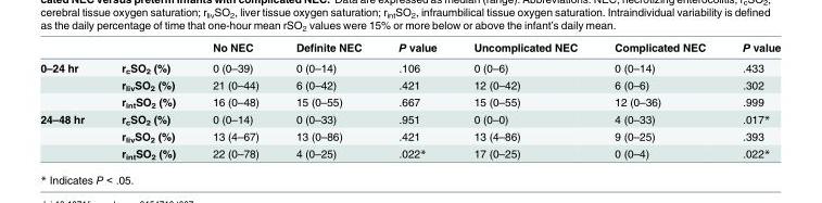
<table><thead><tr><td></td><td></td><td>No NEC</td><td>Definite NEC</td><td>P value</td><td>Uncomplicated NEC</td><td>Complicated NEC</td><td>P value</td></tr></thead><tbody><tr><td rowspan="3">0–24 hr</td><td>r<sub>c</sub>SO<sub>2</sub> (%)</td><td>0 (0–39)</td><td>0 (0–14)</td><td>.106</td><td>0 (0–6)</td><td>0 (0–14)</td><td>.433</td></tr><tr><td>r<sub>liv</sub>SO<sub>2</sub> (%)</td><td>21 (0–44)</td><td>6 (0–42)</td><td>.421</td><td>12 (0–42)</td><td>6 (0–6)</td><td>.302</td></tr><tr><td>r<sub>int</sub>SO<sub>2</sub> (%)</td><td>16 (0–48)</td><td>15 (0–55)</td><td>.667</td><td>15 (0–55)</td><td>12 (0–36)</td><td>.999</td></tr><tr><td rowspan="3">24–48 hr</td><td>r<sub>c</sub>SO<sub>2</sub> (%)</td><td>0 (0–14)</td><td>0 (0–33)</td><td>.951</td><td>0 (0–0)</td><td>4 (0–33)</td><td>.017*</td></tr><tr><td>r<sub>liv</sub>SO<sub>2</sub> (%)</td><td>13 (4–67)</td><td>13 (0–86)</td><td>.421</td><td>13 (4–86)</td><td>9 (0–25)</td><td>.393</td></tr><tr><td>r<sub>int</sub>SO<sub>2</sub> (%)</td><td>22 (0–78)</td><td>4 (0–25)</td><td>.022*</td><td>17 (0–25)</td><td>0 (0–4)</td><td>.022*</td></tr></tbody></table>